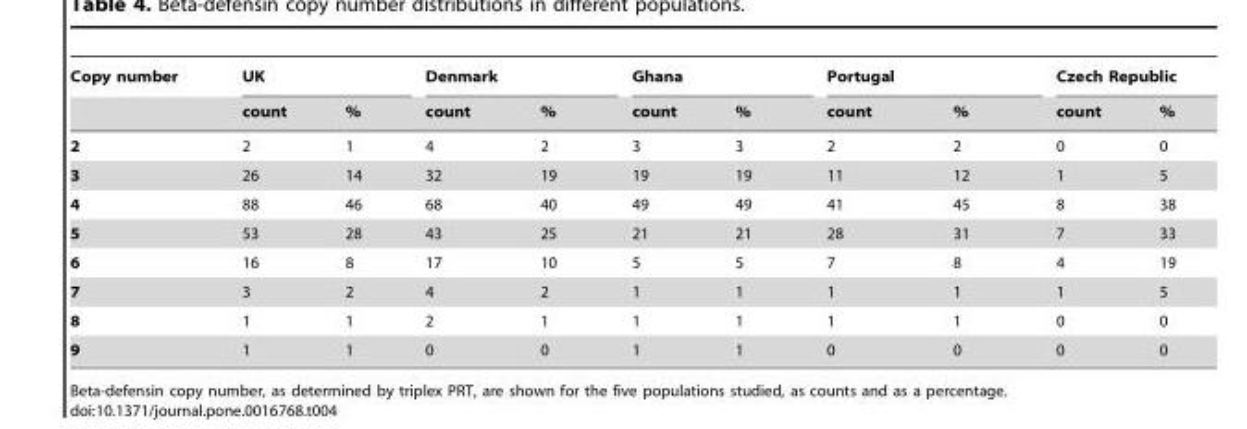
<table><thead><tr><td rowspan="2">Copy number</td><td colspan="2">UK</td><td colspan="2">Denmark</td><td colspan="2">Ghana</td><td colspan="2">Portugal</td><td colspan="2">Czech Republic</td></tr><tr><td>count</td><td>%</td><td>count</td><td>%</td><td>count</td><td>%</td><td>count</td><td>%</td><td>count</td><td>%</td></tr></thead><tbody><tr><td>2</td><td>2</td><td>1</td><td>4</td><td>2</td><td>3</td><td>3</td><td>2</td><td>2</td><td>0</td><td>0</td></tr><tr><td>3</td><td>26</td><td>14</td><td>32</td><td>19</td><td>19</td><td>19</td><td>11</td><td>12</td><td>1</td><td>5</td></tr><tr><td>4</td><td>88</td><td>46</td><td>68</td><td>40</td><td>49</td><td>49</td><td>41</td><td>45</td><td>8</td><td>38</td></tr><tr><td>5</td><td>53</td><td>28</td><td>43</td><td>25</td><td>21</td><td>21</td><td>28</td><td>31</td><td>7</td><td>33</td></tr><tr><td>6</td><td>16</td><td>8</td><td>17</td><td>10</td><td>5</td><td>5</td><td>7</td><td>8</td><td>4</td><td>19</td></tr><tr><td>7</td><td>3</td><td>2</td><td>4</td><td>2</td><td>1</td><td>1</td><td>1</td><td>1</td><td>1</td><td>5</td></tr><tr><td>8</td><td>1</td><td>1</td><td>2</td><td>1</td><td>1</td><td>1</td><td>1</td><td>1</td><td>0</td><td>0</td></tr><tr><td>9</td><td>1</td><td>1</td><td>0</td><td>0</td><td>1</td><td>1</td><td>0</td><td>0</td><td>0</td><td>0</td></tr></tbody></table>